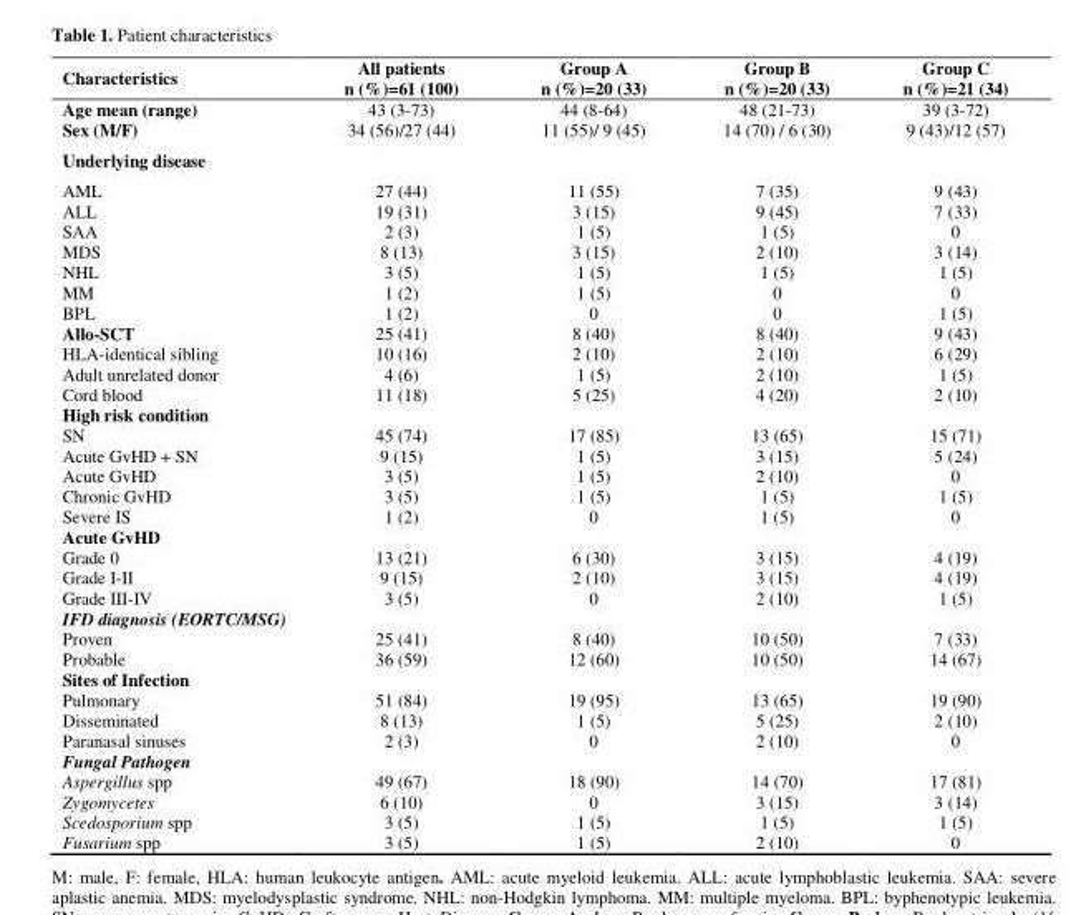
<table><thead><tr><td>Characteristics</td><td>All patients n (%)=61 (100)</td><td>Group A n (%)=20 (33)</td><td>Group B n (%)=20 (33)</td><td>Group C n (%)=21 (34)</td></tr></thead><tbody><tr><td>Age mean (range)</td><td>43 (3-73)</td><td>44 (8-64)</td><td>48 (21-73)</td><td>39 (3-72)</td></tr><tr><td>Sex (M/F)</td><td>34 (56)/27 (44)</td><td>11 (55)/ 9 (45)</td><td>14 (70) / 6 (30)</td><td>9 (43)/12 (57)</td></tr><tr><td colspan="5">Underlying disease</td></tr><tr><td>AML</td><td>27 (44)</td><td>11 (55)</td><td>7 (35)</td><td>9 (43)</td></tr><tr><td>ALL</td><td>19 (31)</td><td>3 (15)</td><td>9 (45)</td><td>7 (33)</td></tr><tr><td>SAA</td><td>2 (3)</td><td>1 (5)</td><td>1 (5)</td><td>0</td></tr><tr><td>MDS</td><td>8 (13)</td><td>3 (15)</td><td>2 (10)</td><td>3 (14)</td></tr><tr><td>NHL</td><td>3 (5)</td><td>1 (5)</td><td>1 (5)</td><td>1 (5)</td></tr><tr><td>MM</td><td>1 (2)</td><td>1 (5)</td><td>0</td><td>0</td></tr><tr><td>BPL</td><td>1 (2)</td><td>0</td><td>0</td><td>1 (5)</td></tr><tr><td>Allo-SCT</td><td>25 (41)</td><td>8 (40)</td><td>8 (40)</td><td>9 (43)</td></tr><tr><td>HLA-identical sibling</td><td>10 (16)</td><td>2 (10)</td><td>2 (10)</td><td>6 (29)</td></tr><tr><td>Adult unrelated donor</td><td>4 (6)</td><td>1 (5)</td><td>2 (10)</td><td>1 (5)</td></tr><tr><td>Cord blood</td><td>11 (18)</td><td>5 (25)</td><td>4 (20)</td><td>2 (10)</td></tr><tr><td colspan="5">High risk condition</td></tr><tr><td>SN</td><td>45 (74)</td><td>17 (85)</td><td>13 (65)</td><td>15 (71)</td></tr><tr><td>Acute GvHD + SN</td><td>9 (15)</td><td>1 (5)</td><td>3 (15)</td><td>5 (24)</td></tr><tr><td>Acute GvHD</td><td>3 (5)</td><td>1 (5)</td><td>2 (10)</td><td>0</td></tr><tr><td>Chronic GvHD</td><td>3 (5)</td><td>1 (5)</td><td>1 (5)</td><td>1 (5)</td></tr><tr><td>Severe IS</td><td>1 (2)</td><td>0</td><td>1 (5)</td><td>0</td></tr><tr><td colspan="5">Acute GvHD</td></tr><tr><td>Grade 0</td><td>13 (21)</td><td>6 (30)</td><td>3 (15)</td><td>4 (19)</td></tr><tr><td>Grade I-II</td><td>9 (15)</td><td>2 (10)</td><td>3 (15)</td><td>4 (19)</td></tr><tr><td>Grade III-IV</td><td>3 (5)</td><td>0</td><td>2 (10)</td><td>1 (5)</td></tr><tr><td colspan="5">IFD diagnosis (EORTC/MSG)</td></tr><tr><td>Proven</td><td>25 (41)</td><td>8 (40)</td><td>10 (50)</td><td>7 (33)</td></tr><tr><td>Probable</td><td>36 (59)</td><td>12 (60)</td><td>10 (50)</td><td>14 (67)</td></tr><tr><td colspan="5">Sites of Infection</td></tr><tr><td>Pulmonary</td><td>51 (84)</td><td>19 (95)</td><td>13 (65)</td><td>19 (90)</td></tr><tr><td>Disseminated</td><td>8 (13)</td><td>1 (5)</td><td>5 (25)</td><td>2 (10)</td></tr><tr><td>Paranasal sinuses</td><td>2 (3)</td><td>0</td><td>2 (10)</td><td>0</td></tr><tr><td colspan="5">Fungal Pathogen</td></tr><tr><td>Aspergillus spp</td><td>49 (67)</td><td>18 (90)</td><td>14 (70)</td><td>17 (81)</td></tr><tr><td>Zygomycetes</td><td>6 (10)</td><td>0</td><td>3 (15)</td><td>3 (14)</td></tr><tr><td>Scedosporium spp</td><td>3 (5)</td><td>1 (5)</td><td>1 (5)</td><td>1 (5)</td></tr><tr><td>Fusarium spp</td><td>3 (5)</td><td>1 (5)</td><td>2 (10)</td><td>0</td></tr></tbody></table>